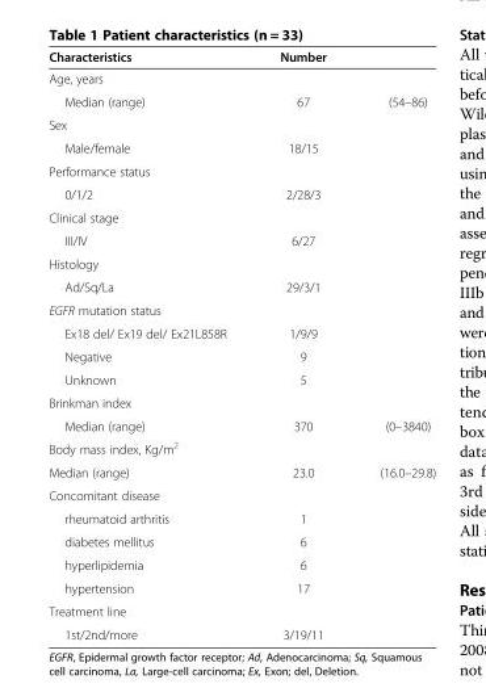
<table><thead><tr><td>Characteristics</td><td>Number</td><td></td></tr></thead><tbody><tr><td colspan="3">Age, years</td></tr><tr><td>Median (range)</td><td>67</td><td>(54–86)</td></tr><tr><td colspan="3">Sex</td></tr><tr><td>Male/female</td><td>18/15</td><td></td></tr><tr><td colspan="3">Performance status</td></tr><tr><td>0/1/2</td><td>2/28/3</td><td></td></tr><tr><td colspan="3">Clinical stage</td></tr><tr><td>III/IV</td><td>6/27</td><td></td></tr><tr><td colspan="3">Histology</td></tr><tr><td>Ad/Sq/La</td><td>29/3/1</td><td></td></tr><tr><td colspan="3">EGFR mutation status</td></tr><tr><td>Ex18 del/ Ex19 del/ Ex21L858R</td><td>1/9/9</td><td></td></tr><tr><td>Negative</td><td>9</td><td></td></tr><tr><td>Unknown</td><td>5</td><td></td></tr><tr><td colspan="3">Brinkman index</td></tr><tr><td>Median (range)</td><td>370</td><td>(0–3840)</td></tr><tr><td colspan="3">Body mass index, Kg/m<sup>2</sup></td></tr><tr><td>Median (range)</td><td>23.0</td><td>(16.0–29.8)</td></tr><tr><td colspan="3">Concomitant disease</td></tr><tr><td>rheumatoid arthritis</td><td>1</td><td></td></tr><tr><td>diabetes mellitus</td><td>6</td><td></td></tr><tr><td>hyperlipidemia</td><td>6</td><td></td></tr><tr><td>hypertension</td><td>17</td><td></td></tr><tr><td colspan="3">Treatment line</td></tr><tr><td>1st/2nd/more</td><td>3/19/11</td><td></td></tr></tbody></table>